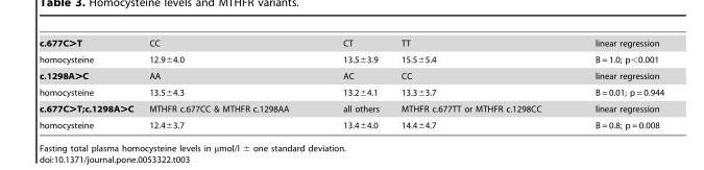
<table><tbody><tr><td>c.677C&gt;T</td><td>CC</td><td>CT</td><td>TT</td><td>linear regression</td></tr><tr><td>homocysteine</td><td>12.9±4.0</td><td>13.5±3.9</td><td>15.5±5.4</td><td>B = 1.0; p&lt;0.001</td></tr><tr><td>c.1298A&gt;C</td><td>AA</td><td>AC</td><td>CC</td><td>linear regression</td></tr><tr><td>homocysteine</td><td>13.5±4.3</td><td>13.2±4.1</td><td>13.3±3.7</td><td>B = 0.01; p = 0.944</td></tr><tr><td>c.677C&gt;T;c.1298A&gt;C</td><td>MTHFR c.677CC &amp; MTHFR c.1298AA</td><td>all others</td><td>MTHFR c.677TT or MTHFR c.1298CC</td><td>linear regression</td></tr><tr><td>homocysteine</td><td>12.4±3.7</td><td>13.4±4.0</td><td>14.4±4.7</td><td>B = 0.8; p = 0.008</td></tr></tbody></table>